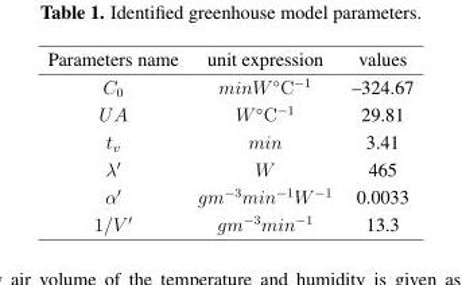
<table><thead><tr><td>Parameters name</td><td>unit expression</td><td>values</td></tr></thead><tbody><tr><td>C<sub>0</sub></td><td>minW ◦C−1</td><td>–324.67</td></tr><tr><td>UA</td><td>W ◦C−1</td><td>29.81</td></tr><tr><td>t<sub>v</sub></td><td>min</td><td>3.41</td></tr><tr><td>λ′</td><td>W</td><td>465</td></tr><tr><td>α′</td><td>gm<sup>−3</sup>min<sup>−1</sup>W <sup>−1</sup></td><td>0.0033</td></tr><tr><td>1/V ′</td><td>gm<sup>−3</sup>min<sup>−1</sup></td><td>13.3</td></tr></tbody></table>